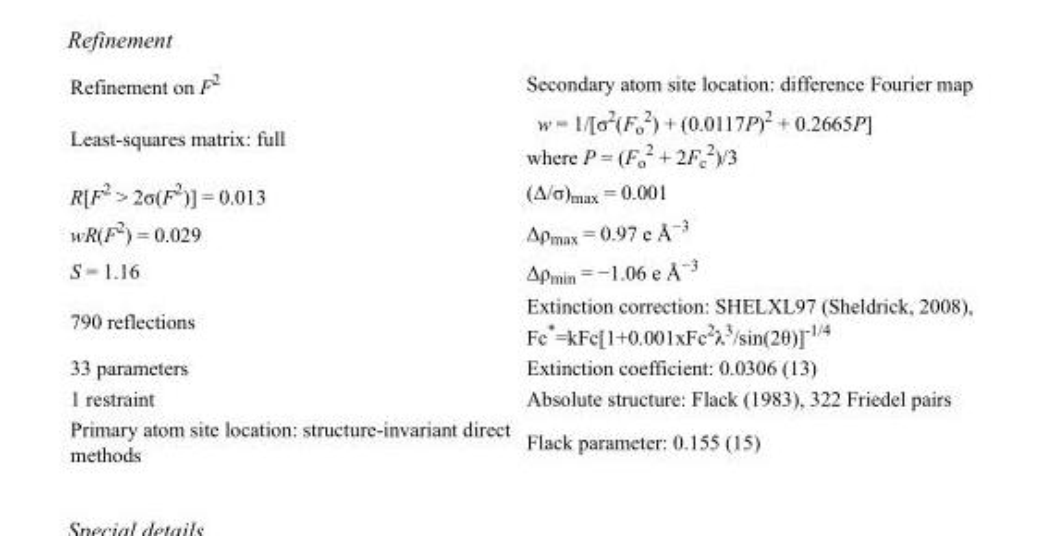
<table><tbody><tr><td>Refinement on F<sup>2</sup></td><td>Secondary atom site location: difference Fourier map</td></tr><tr><td>Least-squares matrix: full</td><td>w = 1/[σ<sup>2</sup>(F<sub>o</sub> <sup>2</sup>) + (0.0117P)<sup>2</sup> + 0.2665P] where P = (F<sub>o</sub> <sup>2</sup> + 2F<sub>c</sub> <sup>2</sup>)/3</td></tr><tr><td>R[F<sup>2</sup> &gt; 2σ(F<sup>2</sup>)] = 0.013</td><td>(Δ/σ)<sub>max</sub> = 0.001</td></tr><tr><td>wR(F<sup>2</sup>) = 0.029</td><td>Δρ<sub>max</sub> = 0.97 e Å<sup>−3</sup></td></tr><tr><td>S = 1.16</td><td>Δρ<sub>min</sub> = −1.06 e Å<sup>−3</sup></td></tr><tr><td>790 reflections</td><td>Extinction correction: SHELXL97 (Sheldrick, 2008), Fc*=kFc[1+0.001xFc<sup>2</sup>λ<sup>3</sup>/sin(2θ)]<sup>-1/4</sup></td></tr><tr><td>33 parameters</td><td>Extinction coefficient: 0.0306 (13)</td></tr><tr><td>1 restraint</td><td>Absolute structure: Flack (1983), 322 Friedel pairs</td></tr><tr><td>Primary atom site location: structure-invariant direct methods</td><td>Flack parameter: 0.155 (15)</td></tr></tbody></table>